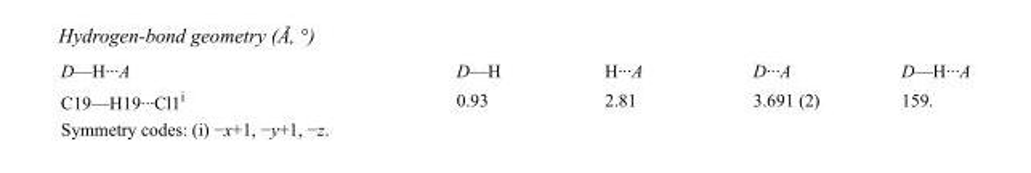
<table><tbody><tr><td>D—H···A</td><td>D—H</td><td>H···A</td><td>D···A</td><td>D—H···A</td></tr><tr><td>C19—H19···Cl1<sup>i</sup></td><td>0.93</td><td>2.81</td><td>3.691 (2)</td><td>159.</td></tr></tbody></table>